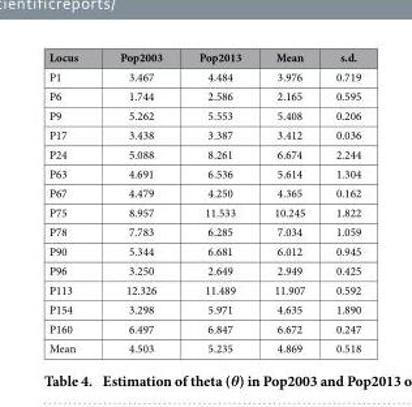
<table><thead><tr><td>Locus</td><td>Pop2003</td><td>Pop2013</td><td>Mean</td><td>s.d.</td></tr></thead><tbody><tr><td>P1</td><td>3.467</td><td>4.484</td><td>3.976</td><td>0.719</td></tr><tr><td>P6</td><td>1.744</td><td>2.586</td><td>2.165</td><td>0.595</td></tr><tr><td>P9</td><td>5.262</td><td>5.553</td><td>5.408</td><td>0.206</td></tr><tr><td>P17</td><td>3.438</td><td>3.387</td><td>3.412</td><td>0.036</td></tr><tr><td>P24</td><td>5.088</td><td>8.261</td><td>6.674</td><td>2.244</td></tr><tr><td>P63</td><td>4.691</td><td>6.536</td><td>5.614</td><td>1.304</td></tr><tr><td>P67</td><td>4.479</td><td>4.250</td><td>4.365</td><td>0.162</td></tr><tr><td>P75</td><td>8.957</td><td>11.533</td><td>10.245</td><td>1.822</td></tr><tr><td>P78</td><td>7.783</td><td>6.285</td><td>7.034</td><td>1.059</td></tr><tr><td>P90</td><td>5.344</td><td>6.681</td><td>6.012</td><td>0.945</td></tr><tr><td>P96</td><td>3.250</td><td>2.649</td><td>2.949</td><td>0.425</td></tr><tr><td>P113</td><td>12.326</td><td>11.489</td><td>11.907</td><td>0.592</td></tr><tr><td>P154</td><td>3.298</td><td>5.971</td><td>4.635</td><td>1.890</td></tr><tr><td>P160</td><td>6.497</td><td>6.847</td><td>6.672</td><td>0.247</td></tr><tr><td>Mean</td><td>4.503</td><td>5.235</td><td>4.869</td><td>0.518</td></tr></tbody></table>